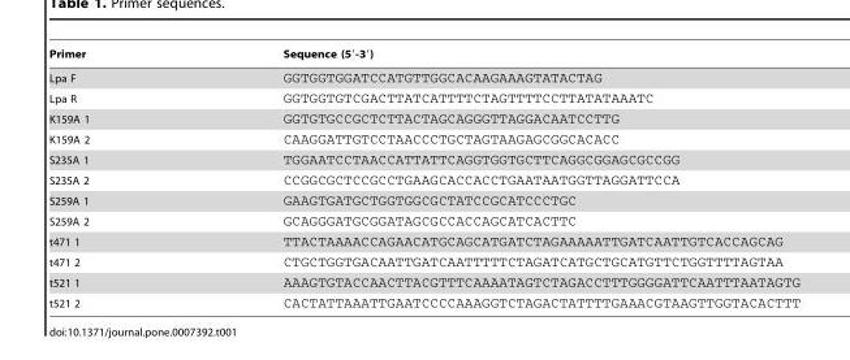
<table><thead><tr><td>Primer</td><td>Sequence (5′-3′)</td></tr></thead><tbody><tr><td>Lpa F</td><td>GGTGGTGGATCCATGTTGGCACAAGAAAGTATACTAG</td></tr><tr><td>Lpa R</td><td>GGTGGTGTCGACTTATCATTTTCTAGTTTTCCTTATATAAATC</td></tr><tr><td>K159A 1</td><td>GGTGTGCCGCTCTTACTAGCAGGGTTAGGACAATCCTTG</td></tr><tr><td>K159A 2</td><td>CAAGGATTGTCCTAACCCTGCTAGTAAGAGCGGCACACC</td></tr><tr><td>S235A 1</td><td>TGGAATCCTAACCATTATTCAGGTGGTGCTTCAGGCGGAGCGCCGG</td></tr><tr><td>S235A 2</td><td>CCGGCGCTCCGCCTGAAGCACCACCTGAATAATGGTTAGGATTCCA</td></tr><tr><td>S259A 1</td><td>GAAGTGATGCTGGTGGCGCTATCCGCATCCCTGC</td></tr><tr><td>S259A 2</td><td>GCAGGGATGCGGATAGCGCCACCAGCATCACTTC</td></tr><tr><td>t471 1</td><td>TTACTAAAACCAGAACATGCAGCATGATCTAGAAAAATTGATCAATTGTCACCAGCAG</td></tr><tr><td>t471 2</td><td>CTGCTGGTGACAATTGATCAATTTTTCTAGATCATGCTGCATGTTCTGGTTTTAGTAA</td></tr><tr><td>t521 1</td><td>AAAGTGTACCAACTTACGTTTCAAAATAGTCTAGACCTTTGGGGATTCAATTTAATAGTG</td></tr><tr><td>t521 2</td><td>CACTATTAAATTGAATCCCCAAAGGTCTAGACTATTTTGAAACGTAAGTTGGTACACTTT</td></tr></tbody></table>